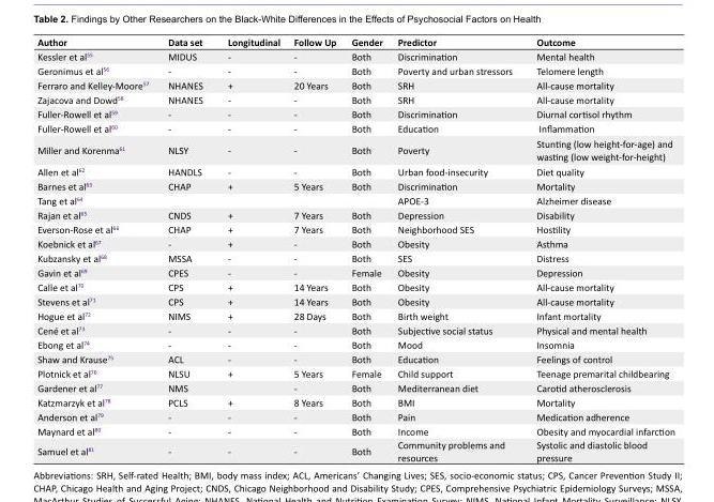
<table><tbody><tr><td>Author</td><td>Data set</td><td>Longitudinal</td><td>Follow Up</td><td>Gender</td><td>Predictor</td><td>Outcome</td></tr><tr><td>Kessler et al<sup>55</sup></td><td>MIDUS</td><td>-</td><td>-</td><td>Both</td><td>Discrimination</td><td>Mental health</td></tr><tr><td>Geronimus et al<sup>56</sup></td><td>-</td><td>-</td><td>-</td><td>Both</td><td>Poverty and urban stressors</td><td>Telomere length</td></tr><tr><td>Ferraro and Kelley-Moore<sup>57</sup></td><td>NHANES</td><td>+</td><td>20 Years</td><td>Both</td><td>SRH</td><td>All-cause mortality</td></tr><tr><td>Zajacova and Dowd<sup>58</sup></td><td>NHANES</td><td>-</td><td>-</td><td>Both</td><td>SRH</td><td>All-cause mortality</td></tr><tr><td>Fuller-Rowell et al<sup>59</sup></td><td>-</td><td>-</td><td>-</td><td>Both</td><td>Discrimination</td><td>Diurnal cortisol rhythm</td></tr><tr><td>Fuller-Rowell et al<sup>60</sup></td><td>-</td><td>-</td><td>-</td><td>Both</td><td>Education</td><td>Inflammation</td></tr><tr><td>Miller and Korenma<sup>61</sup></td><td>NLSY</td><td>-</td><td>-</td><td>Both</td><td>Poverty</td><td>Stunting (low height-for-age) and wasting (low weight-for-height)</td></tr><tr><td>Allen et al<sup>62</sup></td><td>HANDLS</td><td>-</td><td>-</td><td>Both</td><td>Urban food-insecurity</td><td>Diet quality</td></tr><tr><td>Barnes et al<sup>63</sup></td><td>CHAP</td><td>+</td><td>5 Years</td><td>Both</td><td>Discrimination</td><td>Mortality</td></tr><tr><td>Tang et al<sup>64</sup></td><td></td><td></td><td></td><td></td><td>APOE-3</td><td>Alzheimer disease</td></tr><tr><td>Rajan et al<sup>65</sup></td><td>CNDS</td><td>+</td><td>7 Years</td><td>Both</td><td>Depression</td><td>Disability</td></tr><tr><td>Everson-Rose et al<sup>66</sup></td><td>CHAP</td><td>+</td><td>7 Years</td><td>Both</td><td>Neighborhood SES</td><td>Hostility</td></tr><tr><td>Koebnick et al<sup>67</sup></td><td>-</td><td>+</td><td>-</td><td>Both</td><td>Obesity</td><td>Asthma</td></tr><tr><td>Kubzansky et al<sup>68</sup></td><td>MSSA</td><td>-</td><td>-</td><td>Both</td><td>SES</td><td>Distress</td></tr><tr><td>Gavin et al<sup>69</sup></td><td>CPES</td><td>-</td><td>-</td><td>Female</td><td>Obesity</td><td>Depression</td></tr><tr><td>Calle et al<sup>70</sup></td><td>CPS</td><td>+</td><td>14 Years</td><td>Both</td><td>Obesity</td><td>All-cause mortality</td></tr><tr><td>Stevens et al<sup>71</sup></td><td>CPS</td><td>+</td><td>14 Years</td><td>Both</td><td>Obesity</td><td>All-cause mortality</td></tr><tr><td>Hogue et al<sup>72</sup></td><td>NIMS</td><td>+</td><td>28 Days</td><td>Both</td><td>Birth weight</td><td>Infant mortality</td></tr><tr><td>Cené et al<sup>73</sup></td><td>-</td><td>-</td><td>-</td><td>Both</td><td>Subjective social status</td><td>Physical and mental health</td></tr><tr><td>Ebong et al<sup>74</sup></td><td>-</td><td>-</td><td>-</td><td>Both</td><td>Mood</td><td>Insomnia</td></tr><tr><td>Shaw and Krause<sup>75</sup></td><td>ACL</td><td>-</td><td>-</td><td>Both</td><td>Education</td><td>Feelings of control</td></tr><tr><td>Plotnick et al<sup>76</sup></td><td>NLSU</td><td>+</td><td>5 Years</td><td>Female</td><td>Child support</td><td>Teenage premarital childbearing</td></tr><tr><td>Gardener et al<sup>77</sup></td><td>NMS</td><td></td><td>-</td><td>Both</td><td>Mediterranean diet</td><td>Carotid atherosclerosis</td></tr><tr><td>Katzmarzyk et al<sup>78</sup></td><td>PCLS</td><td>+</td><td>8 Years</td><td>Both</td><td>BMI</td><td>Mortality</td></tr><tr><td>Anderson et al<sup>79</sup></td><td>-</td><td>-</td><td>-</td><td>Both</td><td>Pain</td><td>Medication adherence</td></tr><tr><td>Maynard et al<sup>80</sup></td><td>-</td><td>-</td><td>-</td><td>Both</td><td>Income</td><td>Obesity and myocardial infarction</td></tr><tr><td>Samuel et al<sup>81</sup></td><td>-</td><td>-</td><td>-</td><td>Both</td><td>Community problems and resources</td><td>Systolic and diastolic blood pressure</td></tr></tbody></table>